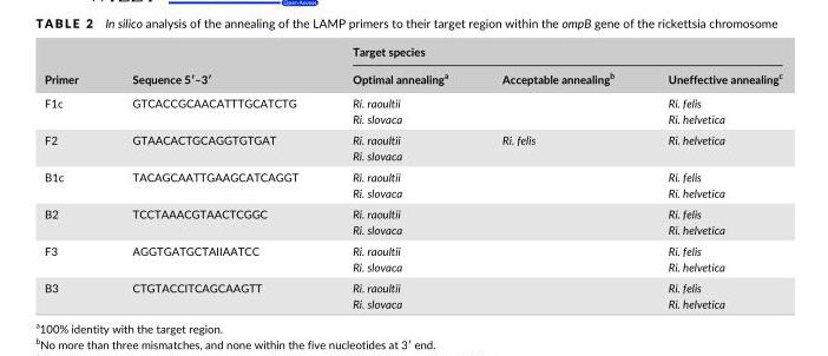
<table><thead><tr><td rowspan="2">Primer</td><td rowspan="2">Sequence 5′–3′</td><td colspan="3">Target species</td></tr><tr><td>Optimal annealing<sup>a</sup></td><td>Acceptable annealing<sup>b</sup></td><td>Uneffective annealing<sup>c</sup></td></tr></thead><tbody><tr><td>F1c</td><td>GTCACCGCAACATTTGCATCTG</td><td>Ri. raoultii Ri. slovaca</td><td></td><td>Ri. felis Ri. helvetica</td></tr><tr><td>F2</td><td>GTAACACTGCAGGTGTGAT</td><td>Ri. raoultii Ri. slovaca</td><td>Ri. felis</td><td>Ri. helvetica</td></tr><tr><td>B1c</td><td>TACAGCAATTGAAGCATCAGGT</td><td>Ri. raoultii Ri. slovaca</td><td></td><td>Ri. felis Ri. helvetica</td></tr><tr><td>B2</td><td>TCCTAAACGTAACTCGGC</td><td>Ri. raoultii Ri. slovaca</td><td></td><td>Ri. felis Ri. helvetica</td></tr><tr><td>F3</td><td>AGGTGATGCTAIIAATCC</td><td>Ri. raoultii Ri. slovaca</td><td></td><td>Ri. felis Ri. helvetica</td></tr><tr><td>B3</td><td>CTGTACCITCAGCAAGTT</td><td>Ri. raoultii Ri. slovaca</td><td></td><td>Ri. felis Ri. helvetica</td></tr></tbody></table>